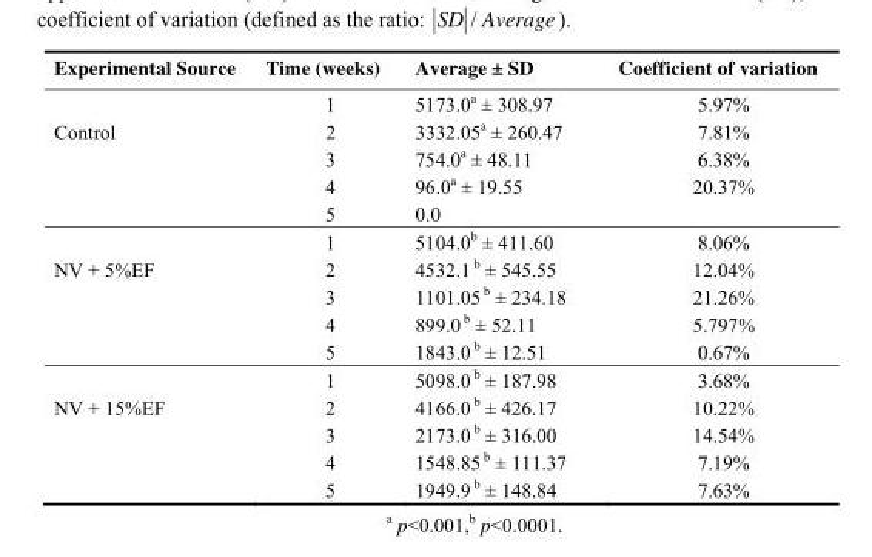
<table><thead><tr><td>Experimental Source</td><td>Time (weeks)</td><td>Average ± SD</td><td>Coefficient of variation</td></tr></thead><tbody><tr><td></td><td>1</td><td>5173.0<sup>a</sup> ± 308.97</td><td>5.97%</td></tr><tr><td rowspan="5">Control</td><td>2</td><td>3332.05<sup>a</sup> ± 260.47</td><td>7.81%</td></tr><tr><td>3</td><td>754.0<sup>a</sup> ± 48.11</td><td>6.38%</td></tr><tr><td>4</td><td>96.0<sup>a</sup> ± 19.55</td><td>20.37%</td></tr><tr><td>5</td><td>0.0</td><td></td></tr><tr><td>1</td><td>5104.0<sup>b</sup> ± 411.60</td><td>8.06%</td></tr><tr><td rowspan="5">NV + 5%EF</td><td>2</td><td>4532.1 b ± 545.55</td><td>12.04%</td></tr><tr><td>3</td><td>1101.05 b ± 234.18</td><td>21.26%</td></tr><tr><td>4</td><td>899.0 b ± 52.11</td><td>5.797%</td></tr><tr><td>5</td><td>1843.0 b ± 12.51</td><td>0.67%</td></tr><tr><td>1</td><td>5098.0 b ± 187.98</td><td>3.68%</td></tr><tr><td rowspan="4">NV + 15%EF</td><td>2</td><td>4166.0 b ± 426.17</td><td>10.22%</td></tr><tr><td>3</td><td>2173.0 b ± 316.00</td><td>14.54%</td></tr><tr><td>4</td><td>1548.85 b ± 111.37</td><td>7.19%</td></tr><tr><td>5</td><td>1949.9 b ± 148.84</td><td>7.63%</td></tr></tbody></table>